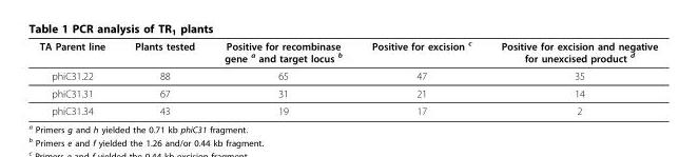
<table><thead><tr><td>TA Parent line</td><td>Plants tested</td><td>Positive for recombinase gene <sup>a</sup> and target locus <sup>b</sup></td><td>Positive for excision <sup>c</sup></td><td>Positive for excision and negative for unexcised product <sup>d</sup></td></tr></thead><tbody><tr><td>phiC31.22</td><td>88</td><td>65</td><td>47</td><td>35</td></tr><tr><td>phiC31.31</td><td>67</td><td>31</td><td>21</td><td>14</td></tr><tr><td>phiC31.34</td><td>43</td><td>19</td><td>17</td><td>2</td></tr></tbody></table>